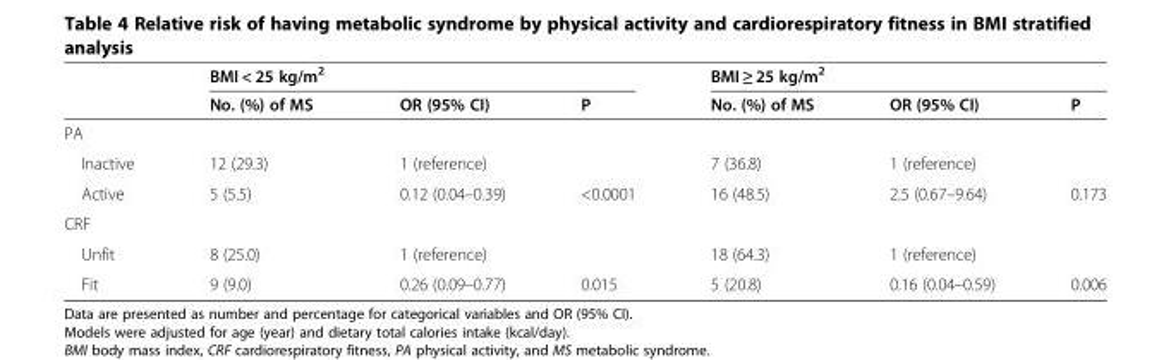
<table><thead><tr><td rowspan="2"></td><td colspan="3">BMI &lt; 25 kg/m<sup>2</sup></td><td colspan="3">BMI ≥ 25 kg/m<sup>2</sup></td></tr><tr><td>No. (%) of MS</td><td>OR (95% CI)</td><td>P</td><td>No. (%) of MS</td><td>OR (95% CI)</td><td>P</td></tr></thead><tbody><tr><td colspan="7">PA</td></tr><tr><td>Inactive</td><td>12 (29.3)</td><td>1 (reference)</td><td></td><td>7 (36.8)</td><td>1 (reference)</td><td></td></tr><tr><td>Active</td><td>5 (5.5)</td><td>0.12 (0.04–0.39)</td><td>&lt;0.0001</td><td>16 (48.5)</td><td>2.5 (0.67–9.64)</td><td>0.173</td></tr><tr><td colspan="7">CRF</td></tr><tr><td>Unfit</td><td>8 (25.0)</td><td>1 (reference)</td><td></td><td>18 (64.3)</td><td>1 (reference)</td><td></td></tr><tr><td>Fit</td><td>9 (9.0)</td><td>0.26 (0.09–0.77)</td><td>0.015</td><td>5 (20.8)</td><td>0.16 (0.04–0.59)</td><td>0.006</td></tr></tbody></table>